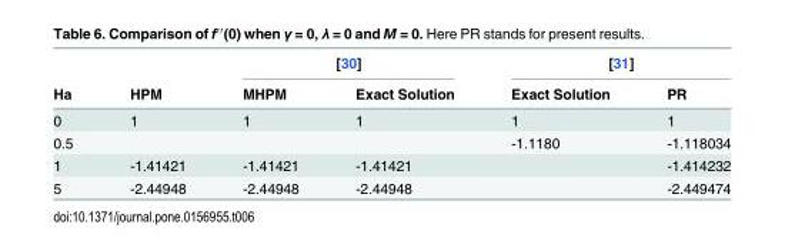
<table><thead><tr><td rowspan="2">Ha</td><td rowspan="2">HPM</td><td colspan="2">[30]</td><td colspan="2">[31]</td></tr><tr><td>MHPM</td><td>Exact Solution</td><td>Exact Solution</td><td>PR</td></tr></thead><tbody><tr><td>0</td><td>1</td><td>1</td><td>1</td><td>1</td><td>1</td></tr><tr><td>0.5</td><td></td><td></td><td></td><td>-1.1180</td><td>-1.118034</td></tr><tr><td>1</td><td>-1.41421</td><td>-1.41421</td><td>-1.41421</td><td></td><td>-1.414232</td></tr><tr><td>5</td><td>-2.44948</td><td>-2.44948</td><td>-2.44948</td><td></td><td>-2.449474</td></tr></tbody></table>